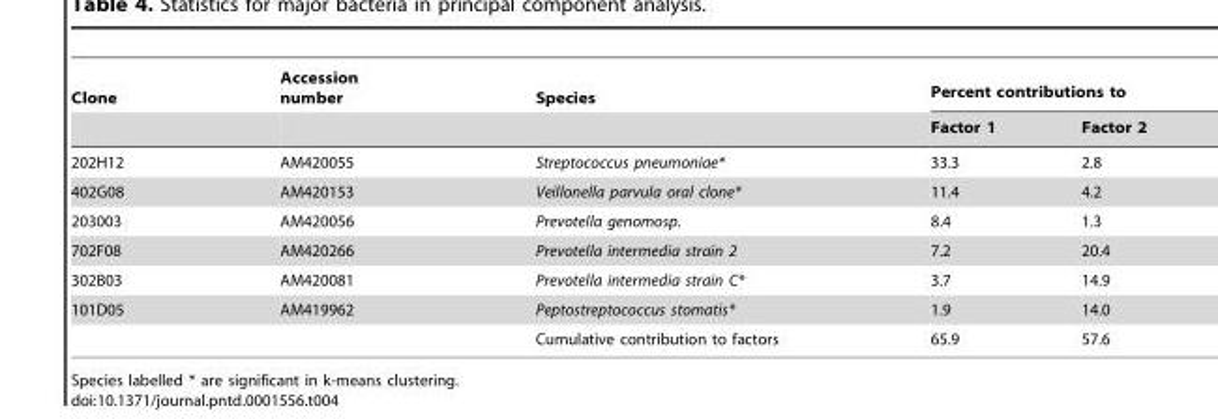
<table><thead><tr><td rowspan="2">Clone</td><td rowspan="2">Accession number</td><td rowspan="2">Species</td><td colspan="2">Percent contributions to</td></tr><tr><td>Factor 1</td><td>Factor 2</td></tr></thead><tbody><tr><td>202H12</td><td>AM420055</td><td>Streptococcus pneumoniae*</td><td>33.3</td><td>2.8</td></tr><tr><td>402G08</td><td>AM420153</td><td>Veillonella parvula oral clone*</td><td>11.4</td><td>4.2</td></tr><tr><td>203003</td><td>AM420056</td><td>Prevotella genomosp.</td><td>8.4</td><td>1.3</td></tr><tr><td>702F08</td><td>AM420266</td><td>Prevotella intermedia strain 2</td><td>7.2</td><td>20.4</td></tr><tr><td>302B03</td><td>AM420081</td><td>Prevotella intermedia strain C*</td><td>3.7</td><td>14.9</td></tr><tr><td>101D05</td><td>AM419962</td><td>Peptostreptococcus stomatis*</td><td>1.9</td><td>14.0</td></tr><tr><td colspan="2"></td><td>Cumulative contribution to factors</td><td>65.9</td><td>57.6</td></tr></tbody></table>